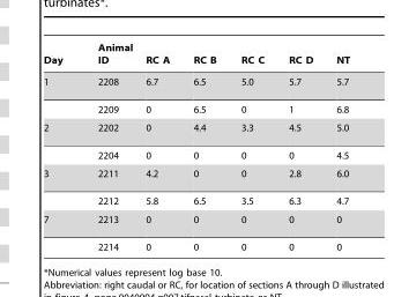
<table><thead><tr><td>Day</td><td>Animal ID</td><td>RC A</td><td>RC B</td><td>RC C</td><td>RC D</td><td>NT</td></tr></thead><tbody><tr><td rowspan="2">1</td><td>2208</td><td>6.7</td><td>6.5</td><td>5.0</td><td>5.7</td><td>5.7</td></tr><tr><td>2209</td><td>0</td><td>6.5</td><td>0</td><td>1</td><td>6.8</td></tr><tr><td rowspan="2">2</td><td>2202</td><td>0</td><td>4.4</td><td>3.3</td><td>4.5</td><td>5.0</td></tr><tr><td>2204</td><td>0</td><td>0</td><td>0</td><td>0</td><td>4.5</td></tr><tr><td rowspan="2">3</td><td>2211</td><td>4.2</td><td>0</td><td>0</td><td>2.8</td><td>6.0</td></tr><tr><td>2212</td><td>5.8</td><td>6.5</td><td>3.5</td><td>6.3</td><td>4.7</td></tr><tr><td rowspan="2">7</td><td>2213</td><td>0</td><td>0</td><td>0</td><td>0</td><td>0</td></tr><tr><td>2214</td><td>0</td><td>0</td><td>0</td><td>0</td><td>0</td></tr></tbody></table>